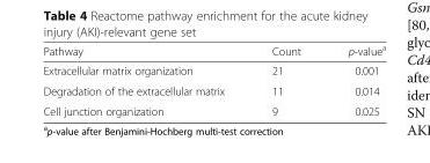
<table><thead><tr><td>Pathway</td><td>Count</td><td>p-value<sup>a</sup></td></tr></thead><tbody><tr><td>Extracellular matrix organization</td><td>21</td><td>0.001</td></tr><tr><td>Degradation of the extracellular matrix</td><td>11</td><td>0.014</td></tr><tr><td>Cell junction organization</td><td>9</td><td>0.025</td></tr></tbody></table>